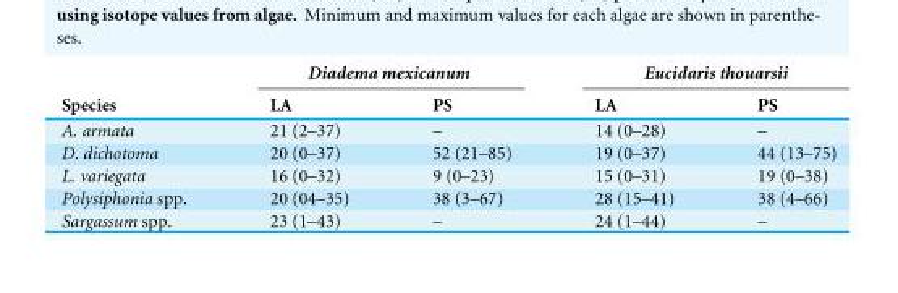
<table><thead><tr><td rowspan="2">Species</td><td colspan="2">Diadema mexicanum</td><td colspan="2">Eucidaris thouarsii</td></tr><tr><td>LA</td><td>PS</td><td>LA</td><td>PS</td></tr></thead><tbody><tr><td>A. armata</td><td>21 (2–37)</td><td>–</td><td>14 (0–28)</td><td>–</td></tr><tr><td>D. dichotoma</td><td>20 (0–37)</td><td>52 (21–85)</td><td>19 (0–37)</td><td>44 (13–75)</td></tr><tr><td>L. variegata</td><td>16 (0–32)</td><td>9 (0–23)</td><td>15 (0–31)</td><td>19 (0–38)</td></tr><tr><td>Polysiphonia spp.</td><td>20 (04–35)</td><td>38 (3–67)</td><td>28 (15–41)</td><td>38 (4–66)</td></tr><tr><td>Sargassum spp.</td><td>23 (1–43)</td><td>–</td><td>24 (1–44)</td><td>–</td></tr></tbody></table>